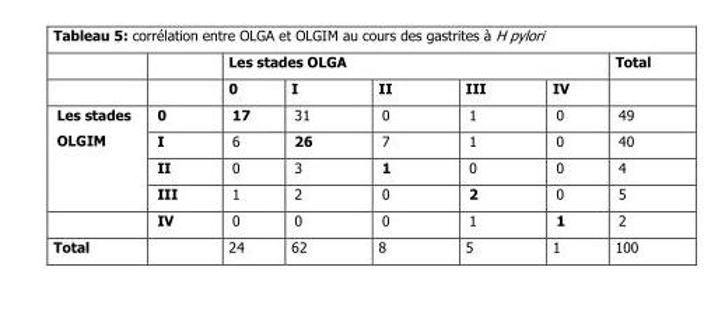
<table><thead><tr><td rowspan="2"></td><td rowspan="2"></td><td colspan="5">Les stades OLGA</td><td rowspan="2">Total</td></tr><tr><td>0</td><td>I</td><td>II</td><td>III</td><td>IV</td></tr></thead><tbody><tr><td rowspan="5">Les stades OLGIM</td><td>0</td><td>17</td><td>31</td><td>0</td><td>1</td><td>0</td><td>49</td></tr><tr><td>I</td><td>6</td><td>26</td><td>7</td><td>1</td><td>0</td><td>40</td></tr><tr><td>II</td><td>0</td><td>3</td><td>1</td><td>0</td><td>0</td><td>4</td></tr><tr><td>III</td><td>1</td><td>2</td><td>0</td><td>2</td><td>0</td><td>5</td></tr><tr><td>IV</td><td>0</td><td>0</td><td>0</td><td>1</td><td>1</td><td>2</td></tr><tr><td>Total</td><td></td><td>24</td><td>62</td><td>8</td><td>5</td><td>1</td><td>100</td></tr></tbody></table>